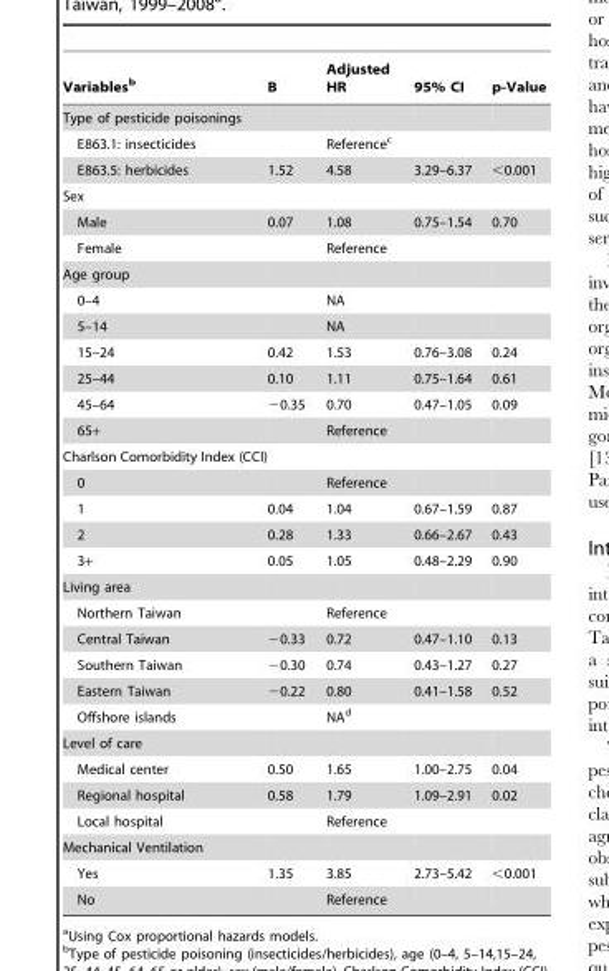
<table><thead><tr><td>Variables<sup>b</sup></td><td>B</td><td>Adjusted HR</td><td>95% CI</td><td>p-Value</td></tr></thead><tbody><tr><td colspan="5">Type of pesticide poisonings</td></tr><tr><td>E863.1: insecticides</td><td></td><td>Reference<sup>c</sup></td><td></td><td></td></tr><tr><td>E863.5: herbicides</td><td>1.52</td><td>4.58</td><td>3.29–6.37</td><td>&lt;0.001</td></tr><tr><td colspan="5">Sex</td></tr><tr><td>Male</td><td>0.07</td><td>1.08</td><td>0.75–1.54</td><td>0.70</td></tr><tr><td>Female</td><td></td><td>Reference</td><td></td><td></td></tr><tr><td colspan="5">Age group</td></tr><tr><td>0–4</td><td></td><td>NA</td><td></td><td></td></tr><tr><td>5–14</td><td></td><td>NA</td><td></td><td></td></tr><tr><td>15–24</td><td>0.42</td><td>1.53</td><td>0.76–3.08</td><td>0.24</td></tr><tr><td>25–44</td><td>0.10</td><td>1.11</td><td>0.75–1.64</td><td>0.61</td></tr><tr><td>45–64</td><td>−0.35</td><td>0.70</td><td>0.47–1.05</td><td>0.09</td></tr><tr><td>65+</td><td></td><td>Reference</td><td></td><td></td></tr><tr><td colspan="5">Charlson Comorbidity Index (CCI)</td></tr><tr><td>0</td><td></td><td>Reference</td><td></td><td></td></tr><tr><td>1</td><td>0.04</td><td>1.04</td><td>0.67–1.59</td><td>0.87</td></tr><tr><td>2</td><td>0.28</td><td>1.33</td><td>0.66–2.67</td><td>0.43</td></tr><tr><td>3+</td><td>0.05</td><td>1.05</td><td>0.48–2.29</td><td>0.90</td></tr><tr><td colspan="5">Living area</td></tr><tr><td>Northern Taiwan</td><td></td><td>Reference</td><td></td><td></td></tr><tr><td>Central Taiwan</td><td>−0.33</td><td>0.72</td><td>0.47–1.10</td><td>0.13</td></tr><tr><td>Southern Taiwan</td><td>−0.30</td><td>0.74</td><td>0.43–1.27</td><td>0.27</td></tr><tr><td>Eastern Taiwan</td><td>−0.22</td><td>0.80</td><td>0.41–1.58</td><td>0.52</td></tr><tr><td>Offshore islands</td><td></td><td>NA<sup>d</sup></td><td></td><td></td></tr><tr><td colspan="5">Level of care</td></tr><tr><td>Medical center</td><td>0.50</td><td>1.65</td><td>1.00–2.75</td><td>0.04</td></tr><tr><td>Regional hospital</td><td>0.58</td><td>1.79</td><td>1.09–2.91</td><td>0.02</td></tr><tr><td>Local hospital</td><td></td><td>Reference</td><td></td><td></td></tr><tr><td colspan="5">Mechanical Ventilation</td></tr><tr><td>Yes</td><td>1.35</td><td>3.85</td><td>2.73–5.42</td><td>&lt;0.001</td></tr><tr><td>No</td><td></td><td>Reference</td><td></td><td></td></tr></tbody></table>